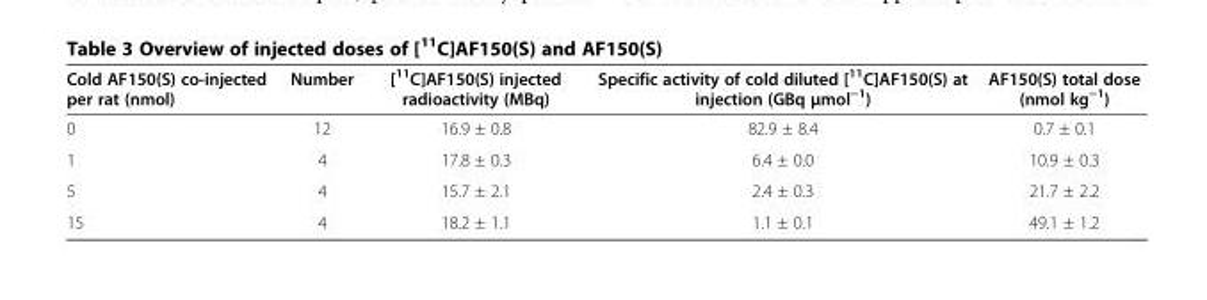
<table><thead><tr><td>Cold AF150(S) co-injected per rat (nmol)</td><td>Number</td><td>[<sup>11</sup>C]AF150(S) injected radioactivity (MBq)</td><td>Specific activity of cold diluted [<sup>11</sup>C]AF150(S) at injection (GBq μmol<sup>−1</sup>)</td><td>AF150(S) total dose (nmol kg<sup>−1</sup>)</td></tr></thead><tbody><tr><td>0</td><td>12</td><td>16.9 ± 0.8</td><td>82.9 ± 8.4</td><td>0.7 ± 0.1</td></tr><tr><td>1</td><td>4</td><td>17.8 ± 0.3</td><td>6.4 ± 0.0</td><td>10.9 ± 0.3</td></tr><tr><td>5</td><td>4</td><td>15.7 ± 2.1</td><td>2.4 ± 0.3</td><td>21.7 ± 2.2</td></tr><tr><td>15</td><td>4</td><td>18.2 ± 1.1</td><td>1.1 ± 0.1</td><td>49.1 ± 1.2</td></tr></tbody></table>